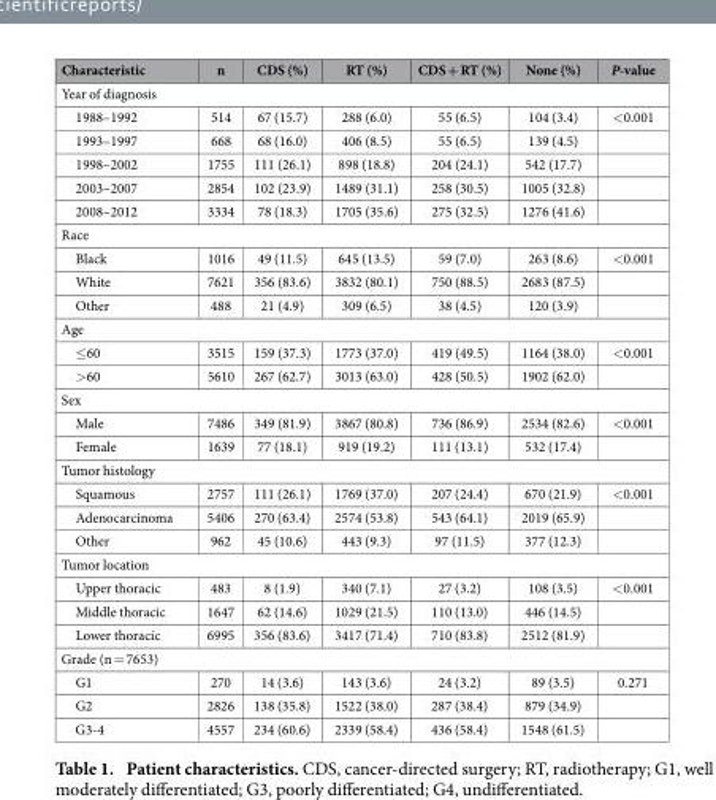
<table><thead><tr><td>Characteristic</td><td>n</td><td>CDS (%)</td><td>RT (%)</td><td>CDS + RT (%)</td><td>None (%)</td><td>P-value</td></tr></thead><tbody><tr><td colspan="7">Year of diagnosis</td></tr><tr><td>1988–1992</td><td>514</td><td>67 (15.7)</td><td>288 (6.0)</td><td>55 (6.5)</td><td>104 (3.4)</td><td>&lt; 0.001</td></tr><tr><td>1993–1997</td><td>668</td><td>68 (16.0)</td><td>406 (8.5)</td><td>55 (6.5)</td><td>139 (4.5)</td><td></td></tr><tr><td>1998–2002</td><td>1755</td><td>111 (26.1)</td><td>898 (18.8)</td><td>204 (24.1)</td><td>542 (17.7)</td><td></td></tr><tr><td>2003–2007</td><td>2854</td><td>102 (23.9)</td><td>1489 (31.1)</td><td>258 (30.5)</td><td>1005 (32.8)</td><td></td></tr><tr><td>2008–2012</td><td>3334</td><td>78 (18.3)</td><td>1705 (35.6)</td><td>275 (32.5)</td><td>1276 (41.6)</td><td></td></tr><tr><td colspan="7">Race</td></tr><tr><td>Black</td><td>1016</td><td>49 (11.5)</td><td>645 (13.5)</td><td>59 (7.0)</td><td>263 (8.6)</td><td>&lt; 0.001</td></tr><tr><td>White</td><td>7621</td><td>356 (83.6)</td><td>3832 (80.1)</td><td>750 (88.5)</td><td>2683 (87.5)</td><td></td></tr><tr><td>Other</td><td>488</td><td>21 (4.9)</td><td>309 (6.5)</td><td>38 (4.5)</td><td>120 (3.9)</td><td></td></tr><tr><td colspan="7">Age</td></tr><tr><td>≤ 60</td><td>3515</td><td>159 (37.3)</td><td>1773 (37.0)</td><td>419 (49.5)</td><td>1164 (38.0)</td><td>&lt; 0.001</td></tr><tr><td>&gt; 60</td><td>5610</td><td>267 (62.7)</td><td>3013 (63.0)</td><td>428 (50.5)</td><td>1902 (62.0)</td><td></td></tr><tr><td colspan="7">Sex</td></tr><tr><td>Male</td><td>7486</td><td>349 (81.9)</td><td>3867 (80.8)</td><td>736 (86.9)</td><td>2534 (82.6)</td><td>&lt; 0.001</td></tr><tr><td>Female</td><td>1639</td><td>77 (18.1)</td><td>919 (19.2)</td><td>111 (13.1)</td><td>532 (17.4)</td><td></td></tr><tr><td colspan="7">Tumor histology</td></tr><tr><td>Squamous</td><td>2757</td><td>111 (26.1)</td><td>1769 (37.0)</td><td>207 (24.4)</td><td>670 (21.9)</td><td>&lt; 0.001</td></tr><tr><td>Adenocarcinoma</td><td>5406</td><td>270 (63.4)</td><td>2574 (53.8)</td><td>543 (64.1)</td><td>2019 (65.9)</td><td></td></tr><tr><td>Other</td><td>962</td><td>45 (10.6)</td><td>443 (9.3)</td><td>97 (11.5)</td><td>377 (12.3)</td><td></td></tr><tr><td colspan="7">Tumor location</td></tr><tr><td>Upper thoracic</td><td>483</td><td>8 (1.9)</td><td>340 (7.1)</td><td>27 (3.2)</td><td>108 (3.5)</td><td>&lt; 0.001</td></tr><tr><td>Middle thoracic</td><td>1647</td><td>62 (14.6)</td><td>1029 (21.5)</td><td>110 (13.0)</td><td>446 (14.5)</td><td></td></tr><tr><td>Lower thoracic</td><td>6995</td><td>356 (83.6)</td><td>3417 (71.4)</td><td>710 (83.8)</td><td>2512 (81.9)</td><td></td></tr><tr><td colspan="7">Grade (n = 7653)</td></tr><tr><td>G1</td><td>270</td><td>14 (3.6)</td><td>143 (3.6)</td><td>24 (3.2)</td><td>89 (3.5)</td><td>0.271</td></tr><tr><td>G2</td><td>2826</td><td>138 (35.8)</td><td>1522 (38.0)</td><td>287 (38.4)</td><td>879 (34.9)</td><td></td></tr><tr><td>G3-4</td><td>4557</td><td>234 (60.6)</td><td>2339 (58.4)</td><td>436 (58.4)</td><td>1548 (61.5)</td><td></td></tr></tbody></table>